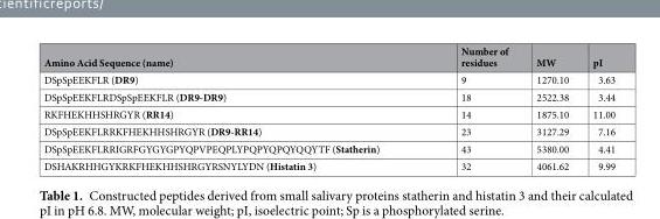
<table><thead><tr><td>Amino Acid Sequence (name)</td><td>Number of residues</td><td>MW</td><td>pI</td></tr></thead><tbody><tr><td>DSpSpEEKFLR (DR9)</td><td>9</td><td>1270.10</td><td>3.63</td></tr><tr><td>DSpSpEEKFLRDSpSpEEKFLR (DR9-DR9)</td><td>18</td><td>2522.38</td><td>3.44</td></tr><tr><td>RKFHEKHHSHRGYR (RR14)</td><td>14</td><td>1875.10</td><td>11.00</td></tr><tr><td>DSpSpEEKFLRRKFHEKHHSHRGYR (DR9-RR14)</td><td>23</td><td>3127.29</td><td>7.16</td></tr><tr><td>DSpSpEEKFLRRIGRFGYGYGPYQPVPEQPLYPQPYQPQYQQYTF (Statherin)</td><td>43</td><td>5380.00</td><td>4.41</td></tr><tr><td>DSHAKRHHGYKRKFHEKHHSHRGYRSNYLYDN (Histatin 3)</td><td>32</td><td>4061.62</td><td>9.99</td></tr></tbody></table>